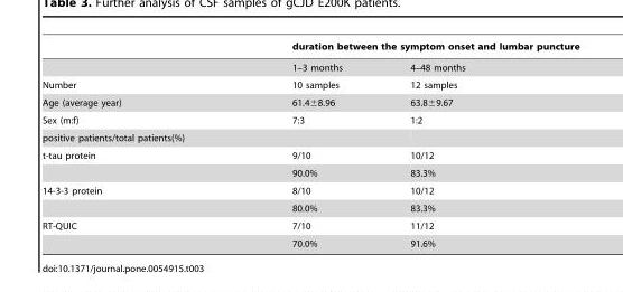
<table><thead><tr><td rowspan="2"></td><td colspan="2">duration between the symptom onset and lumbar puncture</td></tr><tr><td>1–3 months</td><td>4–48 months</td></tr></thead><tbody><tr><td>Number</td><td>10 samples</td><td>12 samples</td></tr><tr><td>Age (average year)</td><td>61.4±8.96</td><td>63.8±9.67</td></tr><tr><td>Sex (m:f)</td><td>7:3</td><td>1:2</td></tr><tr><td colspan="3">positive patients/total patients(%)</td></tr><tr><td rowspan="2">t-tau protein</td><td>9/10</td><td>10/12</td></tr><tr><td>90.0%</td><td>83.3%</td></tr><tr><td rowspan="2">14-3-3 protein</td><td>8/10</td><td>10/12</td></tr><tr><td>80.0%</td><td>83.3%</td></tr><tr><td rowspan="2">RT-QUIC</td><td>7/10</td><td>11/12</td></tr><tr><td>70.0%</td><td>91.6%</td></tr></tbody></table>